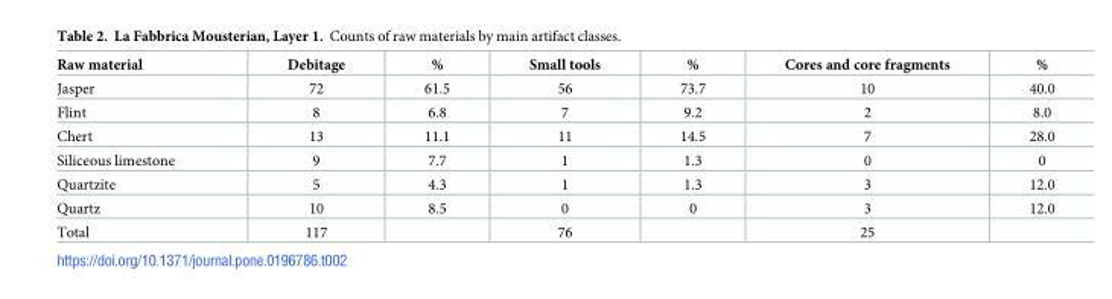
<table><thead><tr><td>Raw material</td><td>Debitage</td><td>%</td><td>Small tools</td><td>%</td><td>Cores and core fragments</td><td>%</td></tr></thead><tbody><tr><td>Jasper</td><td>72</td><td>61.5</td><td>56</td><td>73.7</td><td>10</td><td>40.0</td></tr><tr><td>Flint</td><td>8</td><td>6.8</td><td>7</td><td>9.2</td><td>2</td><td>8.0</td></tr><tr><td>Chert</td><td>13</td><td>11.1</td><td>11</td><td>14.5</td><td>7</td><td>28.0</td></tr><tr><td>Siliceous limestone</td><td>9</td><td>7.7</td><td>1</td><td>1.3</td><td>0</td><td>0</td></tr><tr><td>Quartzite</td><td>5</td><td>4.3</td><td>1</td><td>1.3</td><td>3</td><td>12.0</td></tr><tr><td>Quartz</td><td>10</td><td>8.5</td><td>0</td><td>0</td><td>3</td><td>12.0</td></tr><tr><td>Total</td><td>117</td><td></td><td>76</td><td></td><td>25</td><td></td></tr></tbody></table>